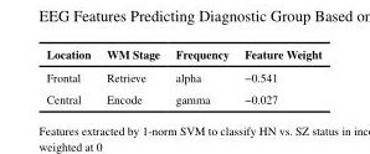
<table><thead><tr><td>Location</td><td>WM Stage</td><td>Frequency</td><td>Feature Weight</td></tr></thead><tbody><tr><td>Frontal</td><td>Retrieve</td><td>alpha</td><td>−0.541</td></tr><tr><td>Central</td><td>Encode</td><td>gamma</td><td>−0.027</td></tr></tbody></table>